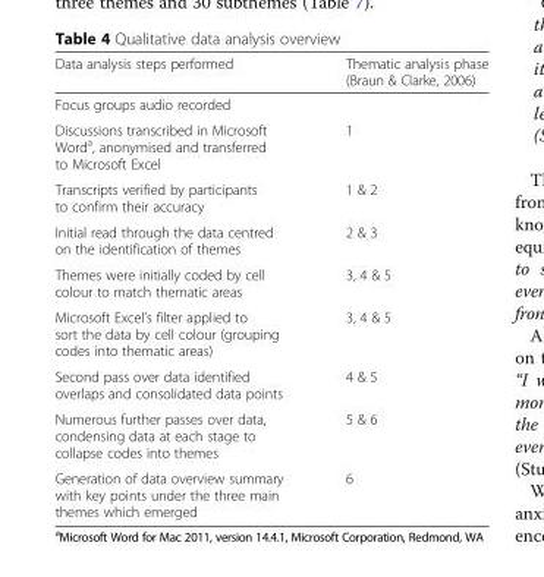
<table><thead><tr><td>Data analysis steps performed</td><td>Thematic analysis phase (Braun &amp; Clarke, 2006)</td></tr></thead><tbody><tr><td colspan="2">Focus groups audio recorded</td></tr><tr><td>Discussions transcribed in Microsoft Word<sup>a</sup>, anonymised and transferred to Microsoft Excel</td><td>1</td></tr><tr><td>Transcripts verified by participants to confirm their accuracy</td><td>1 &amp; 2</td></tr><tr><td>Initial read through the data centred on the identification of themes</td><td>2 &amp; 3</td></tr><tr><td>Themes were initially coded by cell colour to match thematic areas</td><td>3, 4 &amp; 5</td></tr><tr><td>Microsoft Excel’s filter applied to sort the data by cell colour (grouping codes into thematic areas)</td><td>3, 4 &amp; 5</td></tr><tr><td>Second pass over data identified overlaps and consolidated data points</td><td>4 &amp; 5</td></tr><tr><td>Numerous further passes over data, condensing data at each stage to collapse codes into themes</td><td>5 &amp; 6</td></tr><tr><td>Generation of data overview summary with key points under the three main themes which emerged</td><td>6</td></tr></tbody></table>